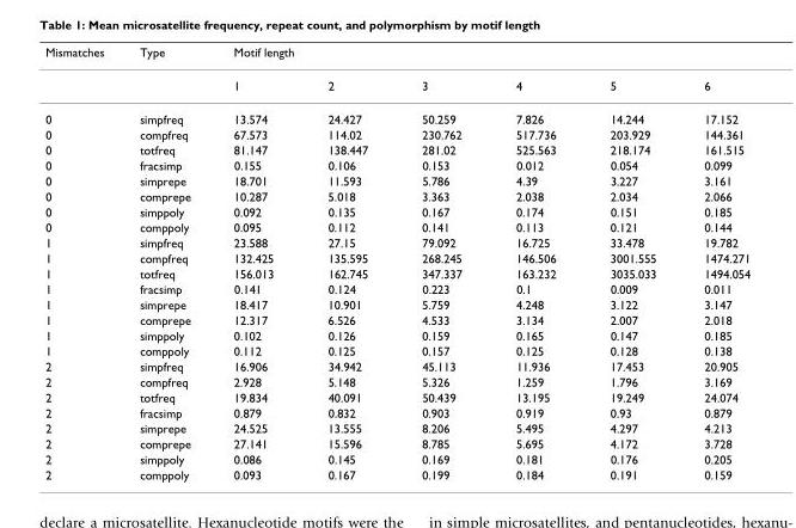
<table><thead><tr><td>Mismatches</td><td>Type</td><td>Motif length</td><td></td><td></td><td></td><td></td><td></td></tr></thead><tbody><tr><td></td><td></td><td>1</td><td>2</td><td>3</td><td>4</td><td>5</td><td>6</td></tr><tr><td>0</td><td>simpfreq</td><td>13.574</td><td>24.427</td><td>50.259</td><td>7.826</td><td>14.244</td><td>17.152</td></tr><tr><td>0</td><td>compfreq</td><td>67.573</td><td>114.02</td><td>230.762</td><td>517.736</td><td>203.929</td><td>144.361</td></tr><tr><td>0</td><td>totfreq</td><td>81.147</td><td>138.447</td><td>281.02</td><td>525.563</td><td>218.174</td><td>161.515</td></tr><tr><td>0</td><td>fracsimp</td><td>0.155</td><td>0.106</td><td>0.153</td><td>0.012</td><td>0.054</td><td>0.099</td></tr><tr><td>0</td><td>simprepe</td><td>18.701</td><td>11.593</td><td>5.786</td><td>4.39</td><td>3.227</td><td>3.161</td></tr><tr><td>0</td><td>comprepe</td><td>10.287</td><td>5.018</td><td>3.363</td><td>2.038</td><td>2.034</td><td>2.066</td></tr><tr><td>0</td><td>simppoly</td><td>0.092</td><td>0.135</td><td>0.167</td><td>0.174</td><td>0.151</td><td>0.185</td></tr><tr><td>0</td><td>comppoly</td><td>0.095</td><td>0.112</td><td>0.141</td><td>0.113</td><td>0.121</td><td>0.144</td></tr><tr><td>1</td><td>simpfreq</td><td>23.588</td><td>27.15</td><td>79.092</td><td>16.725</td><td>33.478</td><td>19.782</td></tr><tr><td>1</td><td>compfreq</td><td>132.425</td><td>135.595</td><td>268.245</td><td>146.506</td><td>3001.555</td><td>1474.271</td></tr><tr><td>1</td><td>totfreq</td><td>156.013</td><td>162.745</td><td>347.337</td><td>163.232</td><td>3035.033</td><td>1494.054</td></tr><tr><td>1</td><td>fracsimp</td><td>0.141</td><td>0.124</td><td>0.223</td><td>0.1</td><td>0.009</td><td>0.011</td></tr><tr><td>1</td><td>simprepe</td><td>18.417</td><td>10.901</td><td>5.759</td><td>4.248</td><td>3.122</td><td>3.147</td></tr><tr><td>1</td><td>comprepe</td><td>12.317</td><td>6.526</td><td>4.533</td><td>3.134</td><td>2.007</td><td>2.018</td></tr><tr><td>1</td><td>simppoly</td><td>0.102</td><td>0.126</td><td>0.159</td><td>0.165</td><td>0.147</td><td>0.185</td></tr><tr><td>1</td><td>comppoly</td><td>0.112</td><td>0.125</td><td>0.157</td><td>0.125</td><td>0.128</td><td>0.138</td></tr><tr><td>2</td><td>simpfreq</td><td>16.906</td><td>34.942</td><td>45.113</td><td>11.936</td><td>17.453</td><td>20.905</td></tr><tr><td>2</td><td>compfreq</td><td>2.928</td><td>5.148</td><td>5.326</td><td>1.259</td><td>1.796</td><td>3.169</td></tr><tr><td>2</td><td>totfreq</td><td>19.834</td><td>40.091</td><td>50.439</td><td>13.195</td><td>19.249</td><td>24.074</td></tr><tr><td>2</td><td>fracsimp</td><td>0.879</td><td>0.832</td><td>0.903</td><td>0.919</td><td>0.93</td><td>0.879</td></tr><tr><td>2</td><td>simprepe</td><td>24.525</td><td>13.555</td><td>8.206</td><td>5.495</td><td>4.297</td><td>4.213</td></tr><tr><td>2</td><td>comprepe</td><td>27.141</td><td>15.596</td><td>8.785</td><td>5.695</td><td>4.172</td><td>3.728</td></tr><tr><td>2</td><td>simppoly</td><td>0.086</td><td>0.145</td><td>0.169</td><td>0.181</td><td>0.176</td><td>0.205</td></tr><tr><td>2</td><td>comppoly</td><td>0.093</td><td>0.167</td><td>0.199</td><td>0.184</td><td>0.191</td><td>0.159</td></tr></tbody></table>